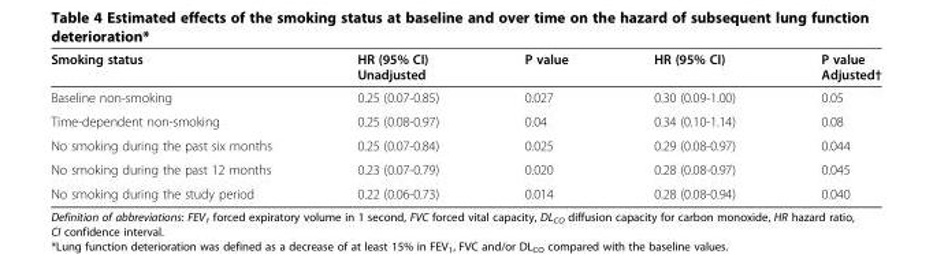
<table><thead><tr><td>Smoking status</td><td>HR (95% CI) Unadjusted</td><td>P value</td><td>HR (95% CI)</td><td>P value Adjusted†</td></tr></thead><tbody><tr><td>Baseline non-smoking</td><td>0.25 (0.07-0.85)</td><td>0.027</td><td>0.30 (0.09-1.00)</td><td>0.05</td></tr><tr><td>Time-dependent non-smoking</td><td>0.25 (0.08-0.97)</td><td>0.04</td><td>0.34 (0.10-1.14)</td><td>0.08</td></tr><tr><td>No smoking during the past six months</td><td>0.25 (0.07-0.84)</td><td>0.025</td><td>0.29 (0.08-0.97)</td><td>0.044</td></tr><tr><td>No smoking during the past 12 months</td><td>0.23 (0.07-0.79)</td><td>0.020</td><td>0.28 (0.08-0.97)</td><td>0.045</td></tr><tr><td>No smoking during the study period</td><td>0.22 (0.06-0.73)</td><td>0.014</td><td>0.28 (0.08-0.94)</td><td>0.040</td></tr></tbody></table>